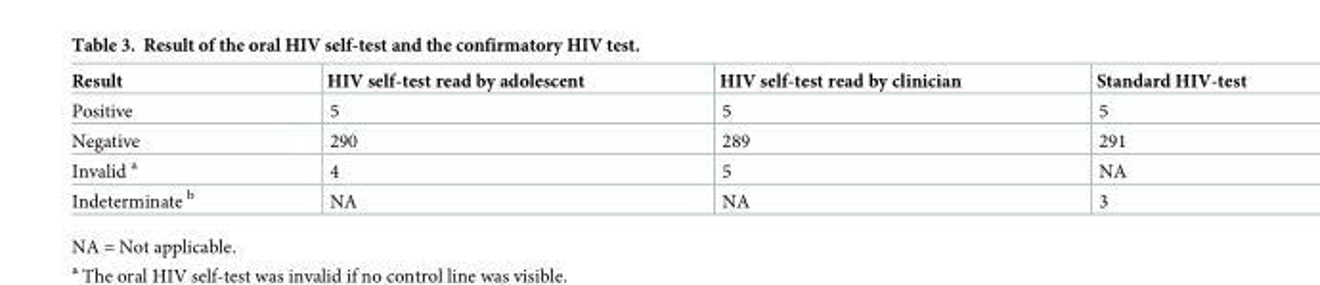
<table><thead><tr><td>Result</td><td>HIV self-test read by adolescent</td><td>HIV self-test read by clinician</td><td>Standard HIV-test</td></tr></thead><tbody><tr><td>Positive</td><td>5</td><td>5</td><td>5</td></tr><tr><td>Negative</td><td>290</td><td>289</td><td>291</td></tr><tr><td>Invalid <sup>a</sup></td><td>4</td><td>5</td><td>NA</td></tr><tr><td>Indeterminate <sup>b</sup></td><td>NA</td><td>NA</td><td>3</td></tr></tbody></table>